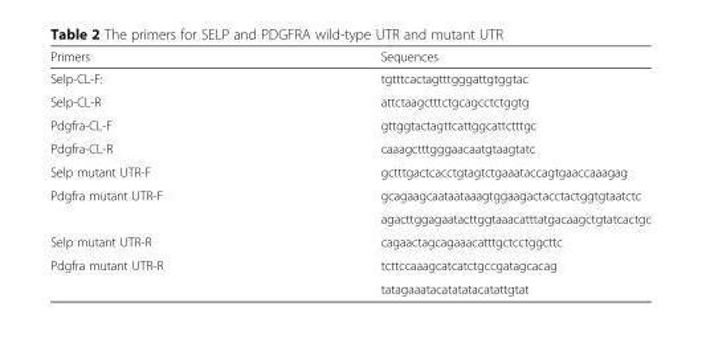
<table><thead><tr><td>Primers</td><td>Sequences</td></tr></thead><tbody><tr><td>Selp-CL-F:</td><td>tgtttcactagtttgggattgtggtac</td></tr><tr><td>Selp-CL-R</td><td>attctaagctttctgcagcctctggtg</td></tr><tr><td>Pdgfra-CL-F</td><td>gttggtactagttcattggcattctttgc</td></tr><tr><td>Pdgfra-CL-R</td><td>caaagctttgggaacaatgtaagtatc</td></tr><tr><td>Selp mutant UTR-F</td><td>gctttgactcacctgtagtctgaaataccagtgaaccaaagag</td></tr><tr><td rowspan="2">Pdgfra mutant UTR-F</td><td>gcagaagcaataataaagtggaagactacctactggtgtaatctc</td></tr><tr><td>agacttggagaatacttggtaaacatttatgacaagctgtatcactgc</td></tr><tr><td>Selp mutant UTR-R</td><td>cagaactagcagaaacatttgctcctggcttc</td></tr><tr><td rowspan="2">Pdgfra mutant UTR-R</td><td>tcttccaaagcatcatctgccgatagcacag</td></tr><tr><td>tatagaaatacatatatacatattgtat</td></tr></tbody></table>